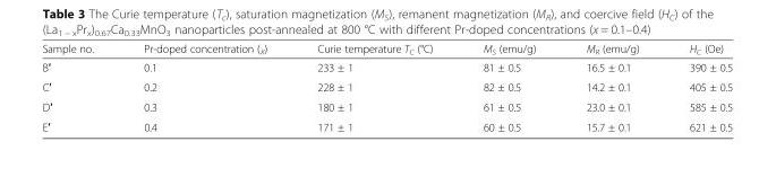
<table><thead><tr><td>Sample no.</td><td>Pr-doped concentration (<sub>X</sub>)</td><td>Curie temperature T<sub>C</sub> (°C)</td><td>M<sub>S</sub> (emu/g)</td><td>M<sub>R</sub> (emu/g)</td><td>H<sub>C</sub> (Oe)</td></tr></thead><tbody><tr><td>B′</td><td>0.1</td><td>233 ± 1</td><td>81 ± 0.5</td><td>16.5 ± 0.1</td><td>390 ± 0.5</td></tr><tr><td>C′</td><td>0.2</td><td>228 ± 1</td><td>82 ± 0.5</td><td>14.2 ± 0.1</td><td>405 ± 0.5</td></tr><tr><td>D′</td><td>0.3</td><td>180 ± 1</td><td>61 ± 0.5</td><td>23.0 ± 0.1</td><td>585 ± 0.5</td></tr><tr><td>E′</td><td>0.4</td><td>171 ± 1</td><td>60 ± 0.5</td><td>15.7 ± 0.1</td><td>621 ± 0.5</td></tr></tbody></table>